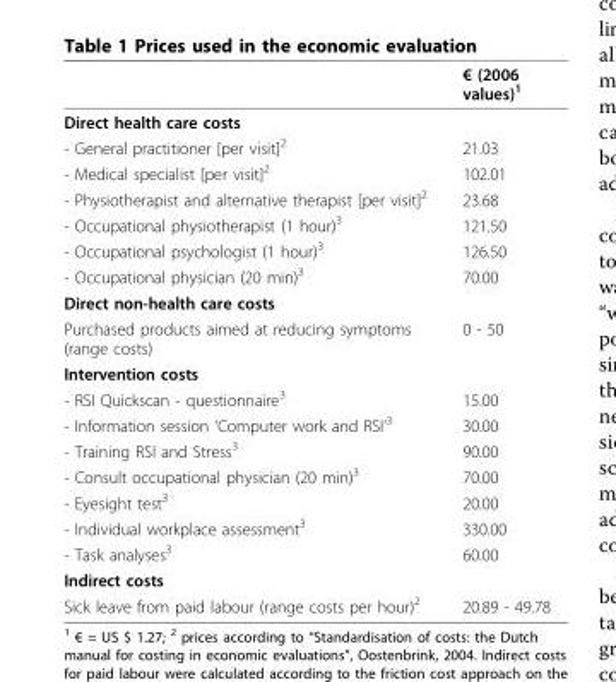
<table><thead><tr><td></td><td>€ (2006 values)<sup>1</sup></td></tr></thead><tbody><tr><td colspan="2">Direct health care costs</td></tr><tr><td>- General practitioner [per visit]<sup>2</sup></td><td>21.03</td></tr><tr><td>- Medical specialist [per visit]<sup>2</sup></td><td>102.01</td></tr><tr><td>- Physiotherapist and alternative therapist [per visit]<sup>2</sup></td><td>23.68</td></tr><tr><td>- Occupational physiotherapist (1 hour)<sup>3</sup></td><td>121.50</td></tr><tr><td>- Occupational psychologist (1 hour)<sup>3</sup></td><td>126.50</td></tr><tr><td>- Occupational physician (20 min)<sup>3</sup></td><td>70.00</td></tr><tr><td colspan="2">Direct non-health care costs</td></tr><tr><td>Purchased products aimed at reducing symptoms (range costs)</td><td>0 - 50</td></tr><tr><td colspan="2">Intervention costs</td></tr><tr><td>- RSI Quickscan - questionnaire<sup>3</sup></td><td>15.00</td></tr><tr><td>- Information session ‘Computer work and RSI’<sup>3</sup></td><td>30.00</td></tr><tr><td>- Training RSI and Stress<sup>3</sup></td><td>90.00</td></tr><tr><td>- Consult occupational physician (20 min)<sup>3</sup></td><td>70.00</td></tr><tr><td>- Eyesight test<sup>3</sup></td><td>20.00</td></tr><tr><td>- Individual workplace assessment<sup>3</sup></td><td>330.00</td></tr><tr><td>- Task analyses<sup>3</sup></td><td>60.00</td></tr><tr><td colspan="2">Indirect costs</td></tr><tr><td>Sick leave from paid labour (range costs per hour)<sup>2</sup></td><td>20.89 - 49.78</td></tr></tbody></table>